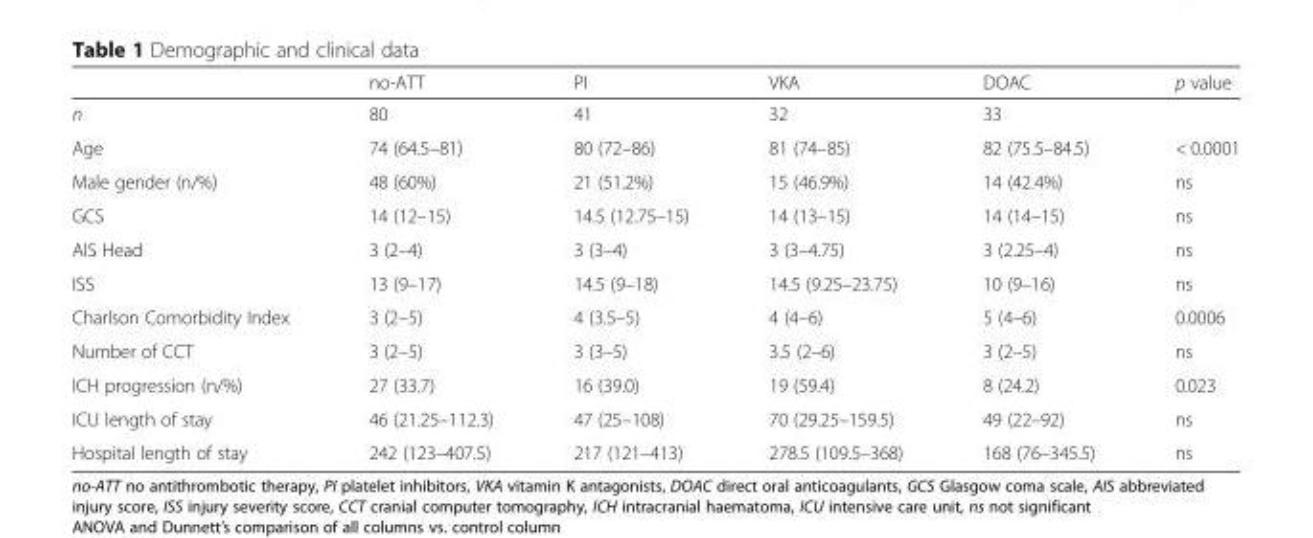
<table><thead><tr><td></td><td>no-ATT</td><td>PI</td><td>VKA</td><td>DOAC</td><td>p value</td></tr></thead><tbody><tr><td>n</td><td>80</td><td>41</td><td>32</td><td>33</td><td></td></tr><tr><td>Age</td><td>74 (64.5–81)</td><td>80 (72–86)</td><td>81 (74–85)</td><td>82 (75.5–84.5)</td><td>&lt; 0.0001</td></tr><tr><td>Male gender (n/%)</td><td>48 (60%)</td><td>21 (51.2%)</td><td>15 (46.9%)</td><td>14 (42.4%)</td><td>ns</td></tr><tr><td>GCS</td><td>14 (12–15)</td><td>14.5 (12.75–15)</td><td>14 (13–15)</td><td>14 (14–15)</td><td>ns</td></tr><tr><td>AIS Head</td><td>3 (2–4)</td><td>3 (3–4)</td><td>3 (3–4.75)</td><td>3 (2.25–4)</td><td>ns</td></tr><tr><td>ISS</td><td>13 (9–17)</td><td>14.5 (9–18)</td><td>14.5 (9.25–23.75)</td><td>10 (9–16)</td><td>ns</td></tr><tr><td>Charlson Comorbidity Index</td><td>3 (2–5)</td><td>4 (3.5–5)</td><td>4 (4–6)</td><td>5 (4–6)</td><td>0.0006</td></tr><tr><td>Number of CCT</td><td>3 (2–5)</td><td>3 (3–5)</td><td>3.5 (2–6)</td><td>3 (2–5)</td><td>ns</td></tr><tr><td>ICH progression (n/%)</td><td>27 (33.7)</td><td>16 (39.0)</td><td>19 (59.4)</td><td>8 (24.2)</td><td>0.023</td></tr><tr><td>ICU length of stay</td><td>46 (21.25–112.3)</td><td>47 (25–108)</td><td>70 (29.25–159.5)</td><td>49 (22–92)</td><td>ns</td></tr><tr><td>Hospital length of stay</td><td>242 (123–407.5)</td><td>217 (121–413)</td><td>278.5 (109.5–368)</td><td>168 (76–345.5)</td><td>ns</td></tr></tbody></table>